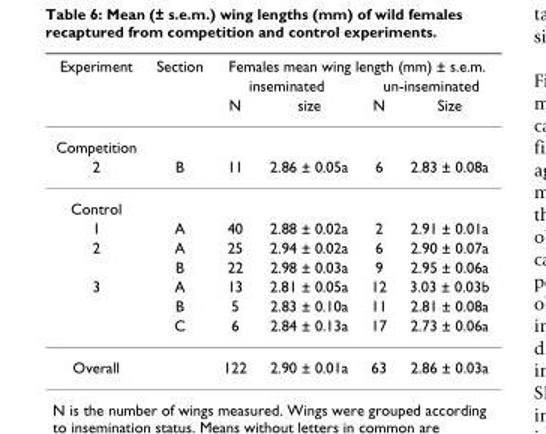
<table><thead><tr><td rowspan="3">Experiment</td><td rowspan="3">Section</td><td colspan="4">Females mean wing length (mm) ± s.e.m.</td></tr><tr><td colspan="2">inseminated</td><td colspan="2">un-inseminated</td></tr><tr><td>N</td><td>size</td><td>N</td><td>Size</td></tr></thead><tbody><tr><td colspan="6">Competition</td></tr><tr><td>2</td><td>B</td><td>11</td><td>2.86 ± 0.05a</td><td>6</td><td>2.83 ± 0.08a</td></tr><tr><td colspan="6">Control</td></tr><tr><td>1</td><td>A</td><td>40</td><td>2.88 ± 0.02a</td><td>2</td><td>2.91 ± 0.01a</td></tr><tr><td rowspan="2">2</td><td>A</td><td>25</td><td>2.94 ± 0.02a</td><td>6</td><td>2.90 ± 0.07a</td></tr><tr><td>B</td><td>22</td><td>2.98 ± 0.03a</td><td>9</td><td>2.95 ± 0.06a</td></tr><tr><td rowspan="3">3</td><td>A</td><td>13</td><td>2.81 ± 0.05a</td><td>12</td><td>3.03 ± 0.03b</td></tr><tr><td>B</td><td>5</td><td>2.83 ± 0.10a</td><td>11</td><td>2.81 ± 0.08a</td></tr><tr><td>C</td><td>6</td><td>2.84 ± 0.13a</td><td>17</td><td>2.73 ± 0.06a</td></tr><tr><td>Overall</td><td></td><td>122</td><td>2.90 ± 0.01a</td><td>63</td><td>2.86 ± 0.03a</td></tr></tbody></table>